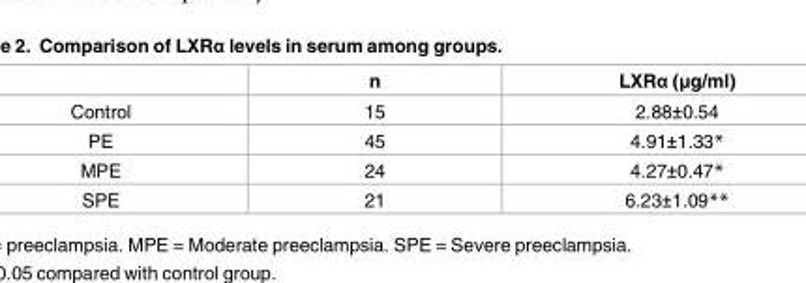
<table><thead><tr><td></td><td>n</td><td>LXRα (μg/ml)</td></tr></thead><tbody><tr><td>Control</td><td>15</td><td>2.88±0.54</td></tr><tr><td>PE</td><td>45</td><td>4.91±1.33*</td></tr><tr><td>MPE</td><td>24</td><td>4.27±0.47*</td></tr><tr><td>SPE</td><td>21</td><td>6.23±1.09**</td></tr></tbody></table>